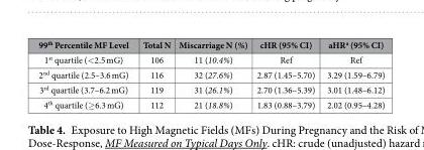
<table><thead><tr><td>99<sup>th</sup> Percentile MF Level</td><td>Total N</td><td>Miscarriage N (%)</td><td>cHR (95% CI)</td><td>aHR<sup>a</sup> (95% CI)</td></tr></thead><tbody><tr><td>1<sup>st</sup> quartile (&lt;2.5 mG)</td><td>106</td><td>11 (10.4%)</td><td>Ref</td><td>Ref</td></tr><tr><td>2<sup>nd</sup> quartile (2.5–3.6 mG)</td><td>116</td><td>32 (27.6%)</td><td>2.87 (1.45–5.70)</td><td>3.29 (1.59–6.79)</td></tr><tr><td>3<sup>rd</sup> quartile (3.7–6.2 mG)</td><td>119</td><td>31 (26.1%)</td><td>2.70 (1.36–5.39)</td><td>3.01 (1.48–6.12)</td></tr><tr><td>4<sup>th</sup> quartile (≥6.3 mG)</td><td>112</td><td>21 (18.8%)</td><td>1.83 (0.88–3.79)</td><td>2.02 (0.95–4.28)</td></tr></tbody></table>